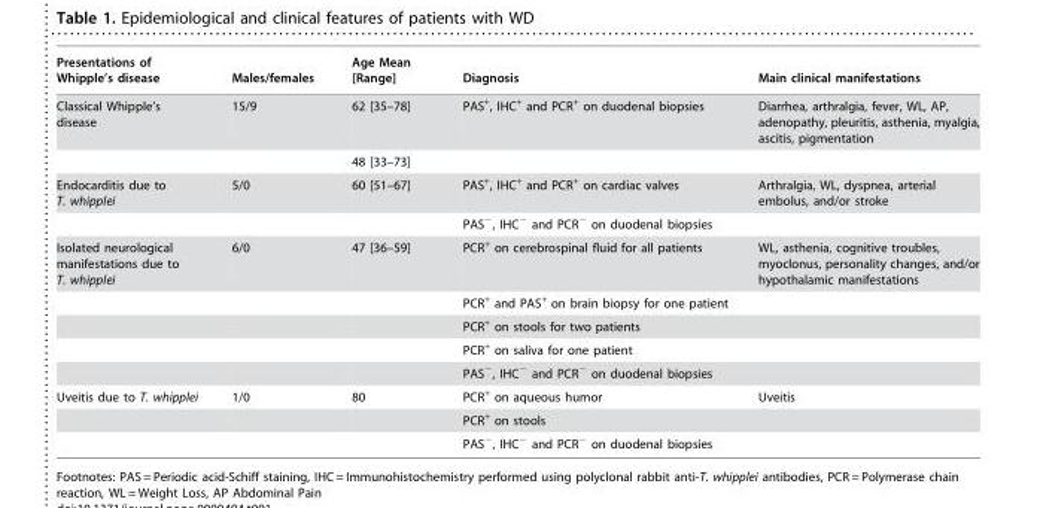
<table><thead><tr><td>Presentations of Whipple’s disease</td><td>Males/females</td><td>Age Mean [Range]</td><td>Diagnosis</td><td>Main clinical manifestations</td></tr></thead><tbody><tr><td rowspan="2">Classical Whipple’s disease</td><td>15/9</td><td>62 [35–78]</td><td>PAS<sup>+</sup>, IHC<sup>+</sup> and PCR<sup>+</sup> on duodenal biopsies</td><td>Diarrhea, arthralgia, fever, WL, AP, adenopathy, pleuritis, asthenia, myalgia, ascitis, pigmentation</td></tr><tr><td></td><td>48 [33–73]</td><td></td><td></td></tr><tr><td rowspan="2">Endocarditis due to T. whipplei</td><td>5/0</td><td>60 [51–67]</td><td>PAS<sup>+</sup>, IHC<sup>+</sup> and PCR<sup>+</sup> on cardiac valves</td><td>Arthralgia, WL, dyspnea, arterial embolus, and/or stroke</td></tr><tr><td></td><td></td><td>PAS<sup>−</sup>, IHC<sup>−</sup> and PCR<sup>−</sup> on duodenal biopsies</td><td></td></tr><tr><td rowspan="5">Isolated neurological manifestations due to T. whipplei</td><td>6/0</td><td>47 [36–59]</td><td>PCR<sup>+</sup> on cerebrospinal fluid for all patients</td><td>WL, asthenia, cognitive troubles, myoclonus, personality changes, and/or hypothalamic manifestations</td></tr><tr><td></td><td></td><td>PCR<sup>+</sup> and PAS<sup>+</sup> on brain biopsy for one patient</td><td></td></tr><tr><td></td><td></td><td>PCR<sup>+</sup> on stools for two patients</td><td></td></tr><tr><td></td><td></td><td>PCR<sup>+</sup> on saliva for one patient</td><td></td></tr><tr><td></td><td></td><td>PAS<sup>−</sup>, IHC<sup>−</sup> and PCR<sup>−</sup> on duodenal biopsies</td><td></td></tr><tr><td rowspan="3">Uveitis due to T. whipplei</td><td>1/0</td><td>80</td><td>PCR<sup>+</sup> on aqueous humor</td><td>Uveitis</td></tr><tr><td></td><td></td><td>PCR<sup>+</sup> on stools</td><td></td></tr><tr><td></td><td></td><td>PAS<sup>−</sup>, IHC<sup>−</sup> and PCR<sup>−</sup> on duodenal biopsies</td><td></td></tr></tbody></table>